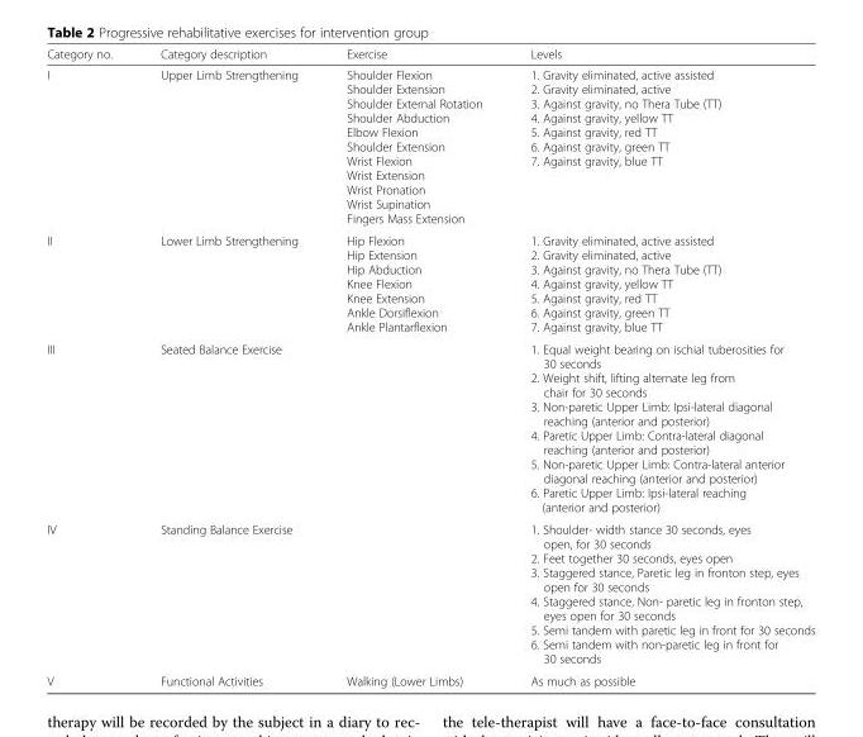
<table><thead><tr><td>Category no.</td><td>Category description</td><td>Exercise</td><td>Levels</td></tr></thead><tbody><tr><td>I</td><td>Upper Limb Strengthening</td><td>Shoulder Flexion Shoulder Extension Shoulder External Rotation Shoulder Abduction Elbow Flexion Shoulder Extension Wrist Flexion Wrist Extension Wrist Pronation Wrist Supination Fingers Mass Extension</td><td>1. Gravity eliminated, active assisted 2. Gravity eliminated, active 3. Against gravity, no Thera Tube (TT) 4. Against gravity, yellow TT 5. Against gravity, red TT 6. Against gravity, green TT 7. Against gravity, blue TT</td></tr><tr><td>II</td><td>Lower Limb Strengthening</td><td>Hip Flexion Hip Extension Hip Abduction Knee Flexion Knee Extension Ankle Dorsiflexion Ankle Plantarflexion</td><td>1. Gravity eliminated, active assisted 2. Gravity eliminated, active 3. Against gravity, no Thera Tube (TT) 4. Against gravity, yellow TT 5. Against gravity, red TT 6. Against gravity, green TT 7. Against gravity, blue TT</td></tr><tr><td>III</td><td>Seated Balance Exercise</td><td></td><td>1. Equal weight bearing on ischial tuberosities for 30 seconds 2. Weight shift, lifting alternate leg from chair for 30 seconds 3. Non-paretic Upper Limb: Ipsi-lateral diagonal reaching (anterior and posterior) 4. Paretic Upper Limb: Contra-lateral diagonal reaching (anterior and posterior) 5. Non-paretic Upper Limb: Contra-lateral anterior diagonal reaching (anterior and posterior) 6. Paretic Upper Limb: Ipsi-lateral reaching (anterior and posterior)</td></tr><tr><td>IV</td><td>Standing Balance Exercise</td><td></td><td>1. Shoulder- width stance 30 seconds, eyes open, for 30 seconds 2. Feet together 30 seconds, eyes open 3. Staggered stance, Paretic leg in fronton step, eyes open for 30 seconds 4. Staggered stance, Non- paretic leg in fronton step, eyes open for 30 seconds 5. Semi tandem with paretic leg in front for 30 seconds 6. Semi tandem with non-paretic leg in front for 30 seconds</td></tr><tr><td>V</td><td>Functional Activities</td><td>Walking (Lower Limbs)</td><td>As much as possible</td></tr></tbody></table>